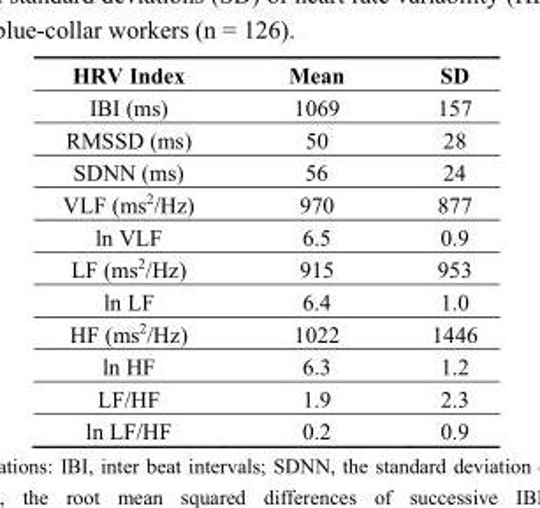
<table><thead><tr><td>HRV Index</td><td>Mean</td><td>SD</td></tr></thead><tbody><tr><td>IBI (ms)</td><td>1069</td><td>157</td></tr><tr><td>RMSSD (ms)</td><td>50</td><td>28</td></tr><tr><td>SDNN (ms)</td><td>56</td><td>24</td></tr><tr><td>VLF (ms<sup>2</sup>/Hz)</td><td>970</td><td>877</td></tr><tr><td>ln VLF</td><td>6.5</td><td>0.9</td></tr><tr><td>LF (ms<sup>2</sup>/Hz)</td><td>915</td><td>953</td></tr><tr><td>ln LF</td><td>6.4</td><td>1.0</td></tr><tr><td>HF (ms<sup>2</sup>/Hz)</td><td>1022</td><td>1446</td></tr><tr><td>ln HF</td><td>6.3</td><td>1.2</td></tr><tr><td>LF/HF</td><td>1.9</td><td>2.3</td></tr><tr><td>ln LF/HF</td><td>0.2</td><td>0.9</td></tr></tbody></table>